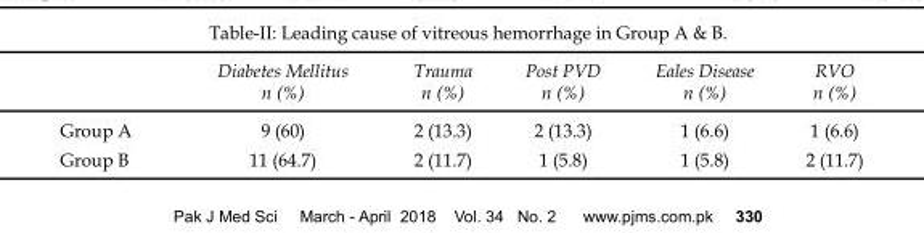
<table><thead><tr><td></td><td>Diabetes Mellitus n (%)</td><td>Trauma n (%)</td><td>Post PVD n (%)</td><td>Eales Disease n (%)</td><td>RVO n (%)</td></tr></thead><tbody><tr><td>Group A</td><td>9 (60)</td><td>2 (13.3)</td><td>2 (13.3)</td><td>1 (6.6)</td><td>1 (6.6)</td></tr><tr><td>Group B</td><td>11 (64.7)</td><td>2 (11.7)</td><td>1 (5.8)</td><td>1 (5.8)</td><td>2 (11.7)</td></tr></tbody></table>